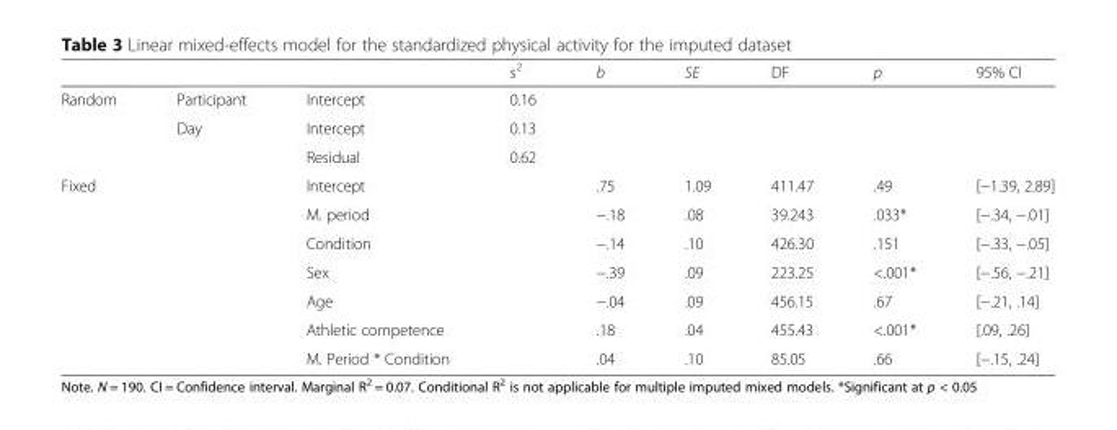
<table><thead><tr><td></td><td></td><td></td><td>s<sup>2</sup></td><td>b</td><td>SE</td><td>DF</td><td>p</td><td>95% CI</td></tr></thead><tbody><tr><td rowspan="3">Random</td><td>Participant</td><td>Intercept</td><td>0.16</td><td></td><td></td><td></td><td></td><td></td></tr><tr><td>Day</td><td>Intercept</td><td>0.13</td><td></td><td></td><td></td><td></td><td></td></tr><tr><td></td><td>Residual</td><td>0.62</td><td></td><td></td><td></td><td></td><td></td></tr><tr><td rowspan="7">Fixed</td><td></td><td>Intercept</td><td></td><td>.75</td><td>1.09</td><td>411.47</td><td>.49</td><td>[−1.39, 2.89]</td></tr><tr><td></td><td>M. period</td><td></td><td>−.18</td><td>.08</td><td>39.243</td><td>.033*</td><td>[−.34, −.01]</td></tr><tr><td></td><td>Condition</td><td></td><td>−.14</td><td>.10</td><td>426.30</td><td>.151</td><td>[−.33, −.05]</td></tr><tr><td></td><td>Sex</td><td></td><td>−.39</td><td>.09</td><td>223.25</td><td>&lt;.001*</td><td>[−.56, −.21]</td></tr><tr><td></td><td>Age</td><td></td><td>−.04</td><td>.09</td><td>456.15</td><td>.67</td><td>[−.21, .14]</td></tr><tr><td></td><td>Athletic competence</td><td></td><td>.18</td><td>.04</td><td>455.43</td><td>&lt;.001*</td><td>[.09, .26]</td></tr><tr><td></td><td>M. Period * Condition</td><td></td><td>.04</td><td>.10</td><td>85.05</td><td>.66</td><td>[−.15, .24]</td></tr></tbody></table>